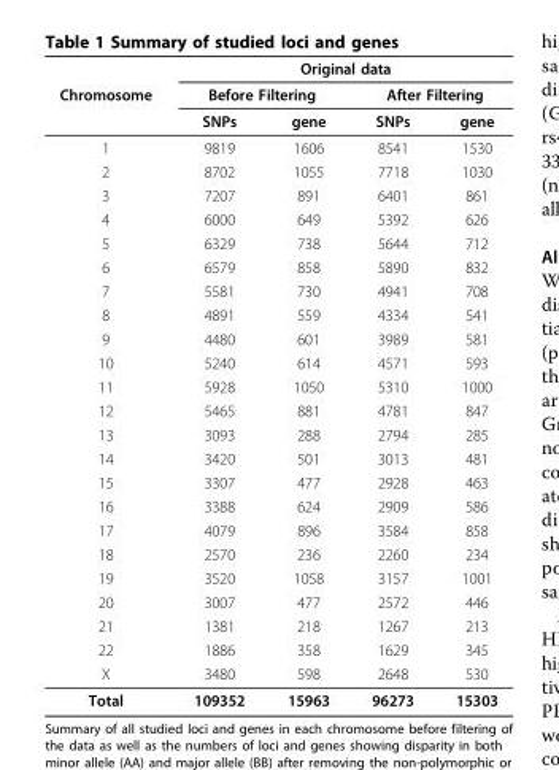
<table><thead><tr><td rowspan="3">Chromosome</td><td colspan="4">Original data</td></tr><tr><td colspan="2">Before Filtering</td><td colspan="2">After Filtering</td></tr><tr><td>SNPs</td><td>gene</td><td>SNPs</td><td>gene</td></tr></thead><tbody><tr><td>1</td><td>9819</td><td>1606</td><td>8541</td><td>1530</td></tr><tr><td>2</td><td>8702</td><td>1055</td><td>7718</td><td>1030</td></tr><tr><td>3</td><td>7207</td><td>891</td><td>6401</td><td>861</td></tr><tr><td>4</td><td>6000</td><td>649</td><td>5392</td><td>626</td></tr><tr><td>5</td><td>6329</td><td>738</td><td>5644</td><td>712</td></tr><tr><td>6</td><td>6579</td><td>858</td><td>5890</td><td>832</td></tr><tr><td>7</td><td>5581</td><td>730</td><td>4941</td><td>708</td></tr><tr><td>8</td><td>4891</td><td>559</td><td>4334</td><td>541</td></tr><tr><td>9</td><td>4480</td><td>601</td><td>3989</td><td>581</td></tr><tr><td>10</td><td>5240</td><td>614</td><td>4571</td><td>593</td></tr><tr><td>11</td><td>5928</td><td>1050</td><td>5310</td><td>1000</td></tr><tr><td>12</td><td>5465</td><td>881</td><td>4781</td><td>847</td></tr><tr><td>13</td><td>3093</td><td>288</td><td>2794</td><td>285</td></tr><tr><td>14</td><td>3420</td><td>501</td><td>3013</td><td>481</td></tr><tr><td>15</td><td>3307</td><td>477</td><td>2928</td><td>463</td></tr><tr><td>16</td><td>3388</td><td>624</td><td>2909</td><td>586</td></tr><tr><td>17</td><td>4079</td><td>896</td><td>3584</td><td>858</td></tr><tr><td>18</td><td>2570</td><td>236</td><td>2260</td><td>234</td></tr><tr><td>19</td><td>3520</td><td>1058</td><td>3157</td><td>1001</td></tr><tr><td>20</td><td>3007</td><td>477</td><td>2572</td><td>446</td></tr><tr><td>21</td><td>1381</td><td>218</td><td>1267</td><td>213</td></tr><tr><td>22</td><td>1886</td><td>358</td><td>1629</td><td>345</td></tr><tr><td>X</td><td>3480</td><td>598</td><td>2648</td><td>530</td></tr><tr><td>Total</td><td>109352</td><td>15963</td><td>96273</td><td>15303</td></tr></tbody></table>